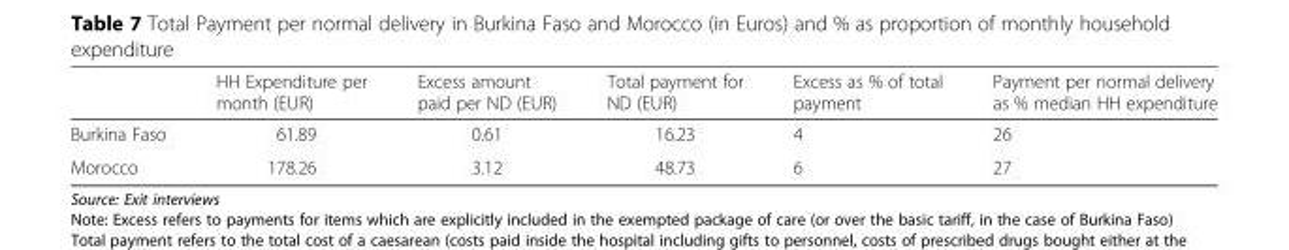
<table><thead><tr><td></td><td>HH Expenditure per month (EUR)</td><td>Excess amount paid per ND (EUR)</td><td>Total payment for ND (EUR)</td><td>Excess as % of total payment</td><td>Payment per normal delivery as % median HH expenditure</td></tr></thead><tbody><tr><td>Burkina Faso</td><td>61.89</td><td>0.61</td><td>16.23</td><td>4</td><td>26</td></tr><tr><td>Morocco</td><td>178.26</td><td>3.12</td><td>48.73</td><td>6</td><td>27</td></tr></tbody></table>